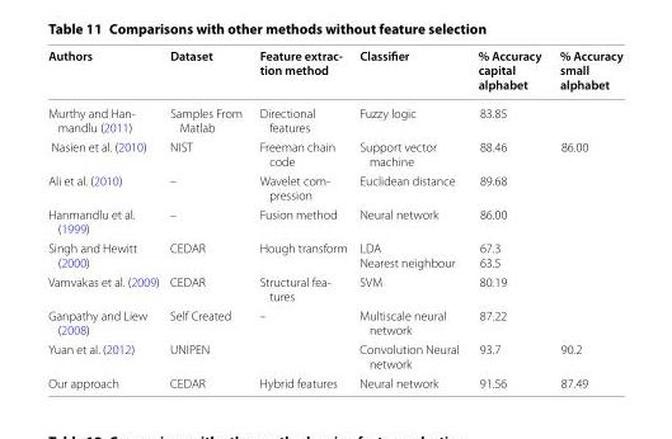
<table><thead><tr><td>Authors</td><td>Dataset</td><td>Feature extrac- tion method</td><td>Classifier</td><td>% Accuracy capital alphabet</td><td>% Accuracy small alphabet</td></tr></thead><tbody><tr><td>Murthy and Han- mandlu (2011)</td><td>Samples From Matlab</td><td>Directional features</td><td>Fuzzy logic</td><td>83.85</td><td></td></tr><tr><td>Nasien et al. (2010)</td><td>NIST</td><td>Freeman chain code</td><td>Support vector machine</td><td>88.46</td><td>86.00</td></tr><tr><td>Ali et al. (2010)</td><td>–</td><td>Wavelet com- pression</td><td>Euclidean distance</td><td>89.68</td><td></td></tr><tr><td>Hanmandlu et al. (1999)</td><td>–</td><td>Fusion method</td><td>Neural network</td><td>86.00</td><td></td></tr><tr><td>Singh and Hewitt (2000)</td><td>CEDAR</td><td>Hough transform</td><td>LDA Nearest neighbour</td><td>67.3 63.5</td><td></td></tr><tr><td>Vamvakas et al. (2009)</td><td>CEDAR</td><td>Structural fea- tures</td><td>SVM</td><td>80.19</td><td></td></tr><tr><td>Ganpathy and Liew (2008)</td><td>Self Created</td><td>–</td><td>Multiscale neural network</td><td>87.22</td><td></td></tr><tr><td>Yuan et al. (2012)</td><td>UNIPEN</td><td></td><td>Convolution Neural network</td><td>93.7</td><td>90.2</td></tr><tr><td>Our approach</td><td>CEDAR</td><td>Hybrid features</td><td>Neural network</td><td>91.56</td><td>87.49</td></tr></tbody></table>